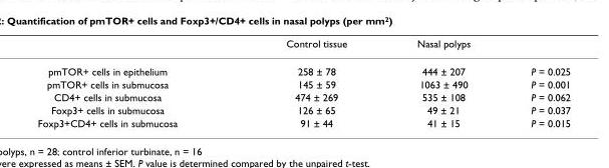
<table><thead><tr><td></td><td>Control tissue</td><td>Nasal polyps</td><td></td></tr></thead><tbody><tr><td>pmTOR+ cells in epithelium</td><td>258 ± 78</td><td>444 ± 207</td><td>P = 0.025</td></tr><tr><td>pmTOR+ cells in submucosa</td><td>145 ± 59</td><td>1063 ± 490</td><td>P = 0.001</td></tr><tr><td>CD4+ cells in submucosa</td><td>474 ± 269</td><td>535 ± 108</td><td>P = 0.062</td></tr><tr><td>Foxp3+ cells in submucosa</td><td>126 ± 65</td><td>49 ± 21</td><td>P = 0.037</td></tr><tr><td>Foxp3+CD4+ cells in submucosa</td><td>91 ± 44</td><td>41 ± 15</td><td>P = 0.015</td></tr></tbody></table>